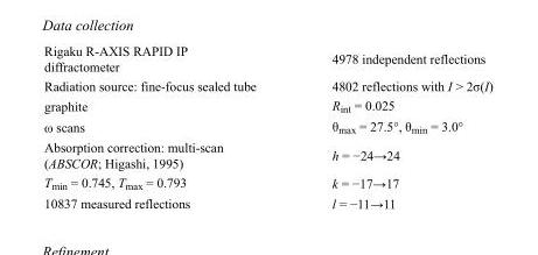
<table><tbody><tr><td>Rigaku R-AXIS RAPID IP diffractometer</td><td>4978 independent reflections</td></tr><tr><td>Radiation source: fine-focus sealed tube</td><td>4802 reflections with I &gt; 2σ(I)</td></tr><tr><td>graphite</td><td>R<sub>int</sub> = 0.025</td></tr><tr><td>ω scans</td><td>θ<sub>max</sub> = 27.5°, θ<sub>min</sub> = 3.0°</td></tr><tr><td>Absorption correction: multi-scan (ABSCOR; Higashi, 1995)</td><td>h = −24→24</td></tr><tr><td>T<sub>min</sub> = 0.745, T<sub>max</sub> = 0.793</td><td>k = −17→17</td></tr><tr><td>10837 measured reflections</td><td>l = −11→11</td></tr></tbody></table>